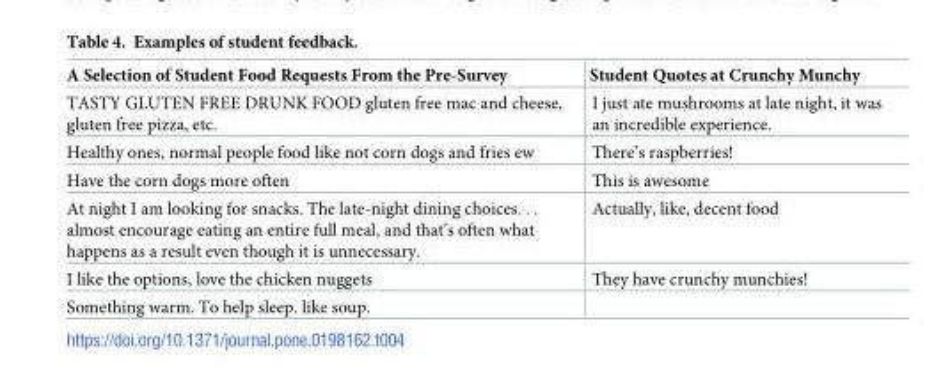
<table><thead><tr><td>A Selection of Student Food Requests From the Pre-Survey</td><td>Student Quotes at Crunchy Munchy</td></tr></thead><tbody><tr><td>TASTY GLUTEN FREE DRUNK FOOD gluten free mac and cheese, gluten free pizza, etc.</td><td>I just ate mushrooms at late night, it was an incredible experience.</td></tr><tr><td>Healthy ones, normal people food like not corn dogs and fries ew</td><td>There’s raspberries!</td></tr><tr><td>Have the corn dogs more often</td><td>This is awesome</td></tr><tr><td>At night I am looking for snacks. The late-night dining choices. . . almost encourage eating an entire full meal, and that’s often what happens as a result even though it is unnecessary.</td><td>Actually, like, decent food</td></tr><tr><td>I like the options, love the chicken nuggets</td><td>They have crunchy munchies!</td></tr><tr><td>Something warm. To help sleep. like soup.</td><td></td></tr></tbody></table>